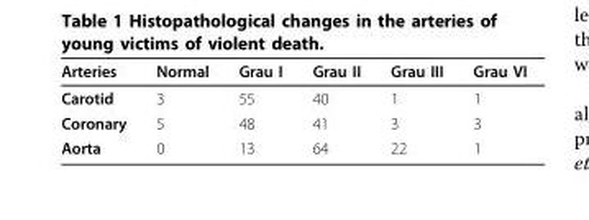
<table><thead><tr><td>Arteries</td><td>Normal</td><td>Grau I</td><td>Grau II</td><td>Grau III</td><td>Grau VI</td></tr></thead><tbody><tr><td>Carotid</td><td>3</td><td>55</td><td>40</td><td>1</td><td>1</td></tr><tr><td>Coronary</td><td>5</td><td>48</td><td>41</td><td>3</td><td>3</td></tr><tr><td>Aorta</td><td>0</td><td>13</td><td>64</td><td>22</td><td>1</td></tr></tbody></table>